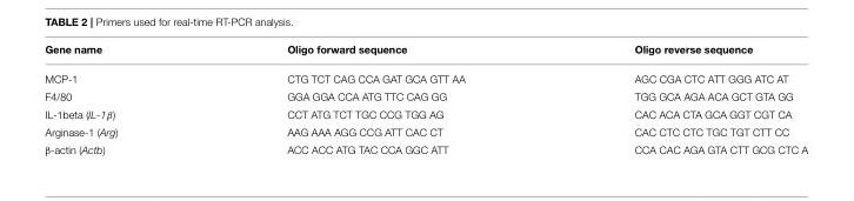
<table><thead><tr><td>Gene name</td><td>Oligo forward sequence</td><td>Oligo reverse sequence</td></tr></thead><tbody><tr><td>MCP-1</td><td>CTG TCT CAG CCA GAT GCA GTT AA</td><td>AGC CGA CTC ATT GGG ATC AT</td></tr><tr><td>F4/80</td><td>GGA GGA CCA ATG TTC CAG GG</td><td>TGG GCA AGA ACA GCT GTA GG</td></tr><tr><td>IL-1beta (IL-1β)</td><td>CCT ATG TCT TGC CCG TGG AG</td><td>CAC ACA CTA GCA GGT CGT CA</td></tr><tr><td>Arginase-1 (Arg)</td><td>AAG AAA AGG CCG ATT CAC CT</td><td>CAC CTC CTC TGC TGT CTT CC</td></tr><tr><td>β-actin (Actb)</td><td>ACC ACC ATG TAC CCA GGC ATT</td><td>CCA CAC AGA GTA CTT GCG CTC A</td></tr></tbody></table>